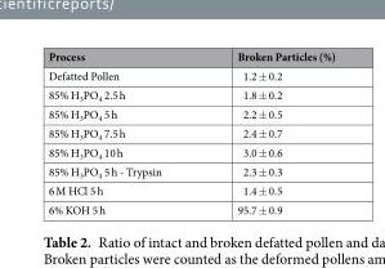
<table><thead><tr><td>Process</td><td>Broken Particles (%)</td></tr></thead><tbody><tr><td>Defatted Pollen</td><td>1.2 ± 0.2</td></tr><tr><td>85% H<sub>3</sub>PO<sub>4</sub> 2.5 h</td><td>1.8 ± 0.2</td></tr><tr><td>85% H<sub>3</sub>PO<sub>4</sub> 5 h</td><td>2.2 ± 0.5</td></tr><tr><td>85% H<sub>3</sub>PO<sub>4</sub> 7.5 h</td><td>2.4 ± 0.7</td></tr><tr><td>85% H<sub>3</sub>PO<sub>4</sub> 10 h</td><td>3.0 ± 0.6</td></tr><tr><td>85% H<sub>3</sub>PO<sub>4</sub> 5 h - Trypsin</td><td>2.3 ± 0.3</td></tr><tr><td>6 M HCl 5 h</td><td>1.4 ± 0.5</td></tr><tr><td>6% KOH 5 h</td><td>95.7 ± 0.9</td></tr></tbody></table>